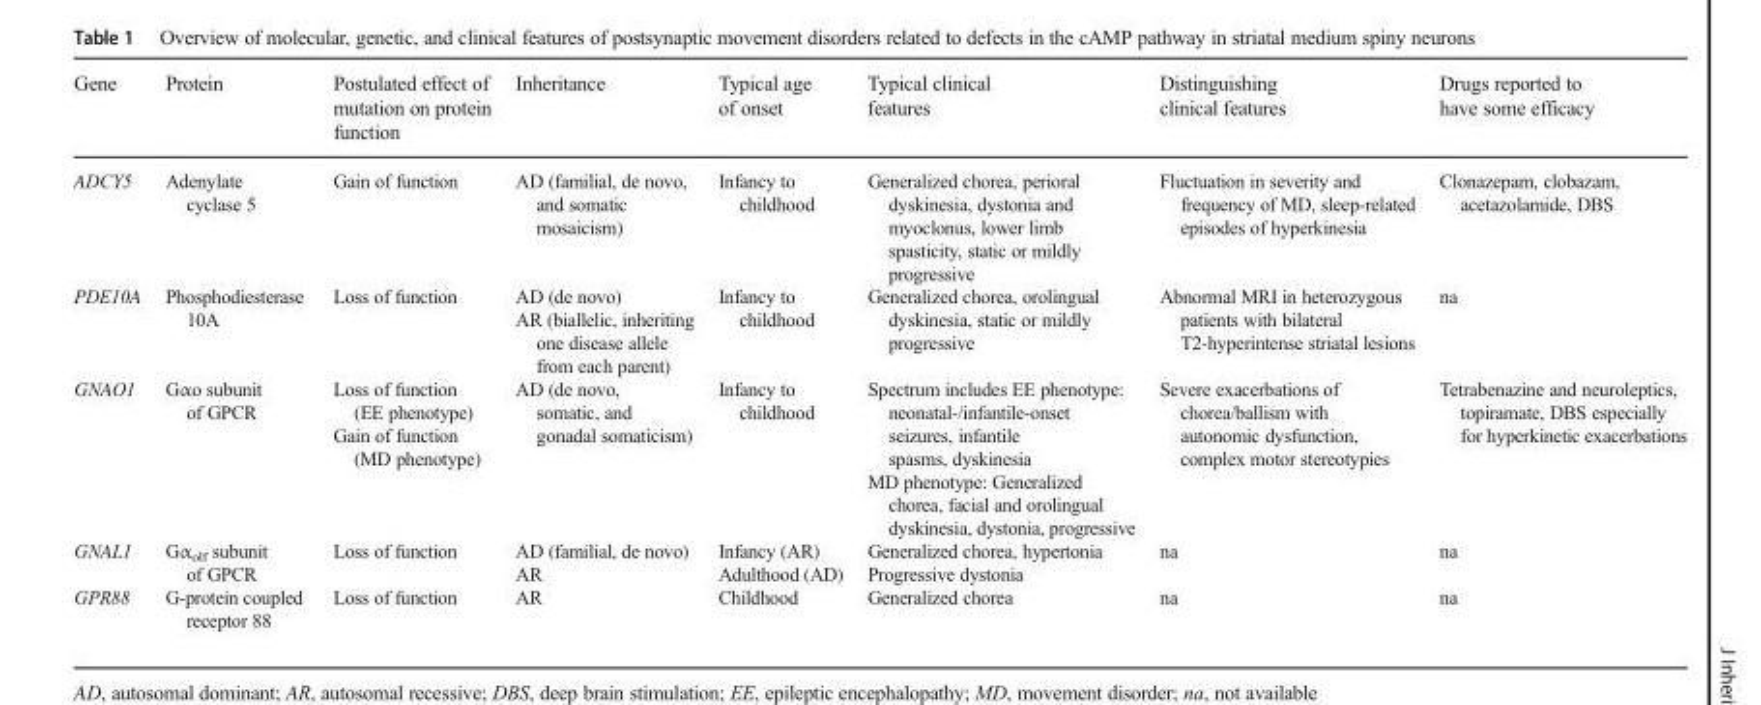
<table><thead><tr><td>Gene</td><td>Protein</td><td>Postulated effect of mutation on protein function</td><td>Inheritance</td><td>Typical age of onset</td><td>Typical clinical features</td><td>Distinguishing clinical features</td><td>Drugs reported to have some efficacy</td></tr></thead><tbody><tr><td>ADCY5</td><td>Adenylate cyclase 5</td><td>Gain of function</td><td>AD (familial, de novo, and somatic mosaicism)</td><td>Infancy to childhood</td><td>Generalized chorea, perioral dyskinesia, dystonia and myoclonus, lower limb spasticity, static or mildly progressive</td><td>Fluctuation in severity and frequency of MD, sleep-related episodes of hyperkinesia</td><td>Clonazepam, clobazam, acetazolamide, DBS</td></tr><tr><td>PDE10A</td><td>Phosphodiesterase 10A</td><td>Loss of function</td><td>AD (de novo) AR (biallelic, inheriting one disease allele from each parent)</td><td>Infancy to childhood</td><td>Generalized chorea, orolingual dyskinesia, static or mildly progressive</td><td>Abnormal MRI in heterozygous patients with bilateral T2-hyperintense striatal lesions</td><td>na</td></tr><tr><td>GNAO1</td><td>Gαo subunit of GPCR</td><td>Loss of function (EE phenotype) Gain of function (MD phenotype)</td><td>AD (de novo, somatic, and gonadal somaticism)</td><td>Infancy to childhood</td><td>Spectrum includes EE phenotype: neonatal-/infantile-onset seizures, infantile spasms, dyskinesia MD phenotype: Generalized chorea, facial and orolingual dyskinesia, dystonia, progressive</td><td>Severe exacerbations of chorea/ballism with autonomic dysfunction, complex motor stereotypies</td><td>Tetrabenazine and neuroleptics, topiramate, DBS especially for hyperkinetic exacerbations</td></tr><tr><td>GNAL1</td><td>Gα<sub>olf</sub> subunit of GPCR</td><td>Loss of function</td><td>AD (familial, de novo) AR</td><td>Infancy (AR) Adulthood (AD)</td><td>Generalized chorea, hypertonia Progressive dystonia</td><td>na</td><td>na</td></tr><tr><td>GPR88</td><td>G-protein coupled receptor 88</td><td>Loss of function</td><td>AR</td><td>Childhood</td><td>Generalized chorea</td><td>na</td><td>na</td></tr></tbody></table>